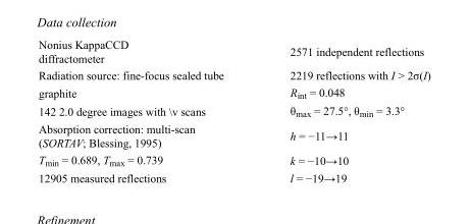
<table><tbody><tr><td>Nonius KappaCCD diffractometer</td><td>2571 independent reflections</td></tr><tr><td>Radiation source: fine-focus sealed tube</td><td>2219 reflections with I &gt; 2σ(I)</td></tr><tr><td>graphite</td><td>R<sub>int</sub> = 0.048</td></tr><tr><td>142 2.0 degree images with \v scans</td><td>θ<sub>max</sub> = 27.5°, θ<sub>min</sub> = 3.3°</td></tr><tr><td>Absorption correction: multi-scan (SORTAV; Blessing, 1995)</td><td>h = −11→11</td></tr><tr><td>T<sub>min</sub> = 0.689, T<sub>max</sub> = 0.739</td><td>k = −10→10</td></tr><tr><td>12905 measured reflections</td><td>l = −19→19</td></tr></tbody></table>